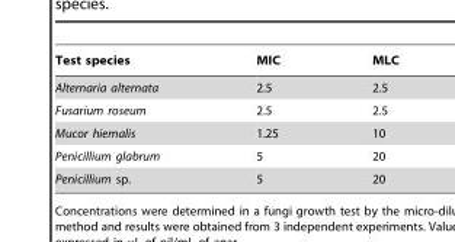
<table><thead><tr><td>Test species</td><td>MIC</td><td>MLC</td></tr></thead><tbody><tr><td>Alternaria alternata</td><td>2.5</td><td>2.5</td></tr><tr><td>Fusarium roseum</td><td>2.5</td><td>2.5</td></tr><tr><td>Mucor hiemalis</td><td>1.25</td><td>10</td></tr><tr><td>Penicillium glabrum</td><td>5</td><td>20</td></tr><tr><td>Penicillium sp.</td><td>5</td><td>20</td></tr></tbody></table>